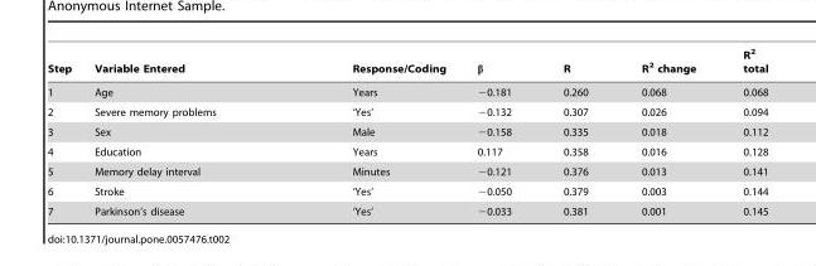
<table><thead><tr><td>Step</td><td>Variable Entered</td><td>Response/Coding</td><td>β</td><td>R</td><td>R<sup>2</sup> change</td><td>R<sup>2</sup> total</td></tr></thead><tbody><tr><td>1</td><td>Age</td><td>Years</td><td>−0.181</td><td>0.260</td><td>0.068</td><td>0.068</td></tr><tr><td>2</td><td>Severe memory problems</td><td>‘Yes’</td><td>−0.132</td><td>0.307</td><td>0.026</td><td>0.094</td></tr><tr><td>3</td><td>Sex</td><td>Male</td><td>−0.158</td><td>0.335</td><td>0.018</td><td>0.112</td></tr><tr><td>4</td><td>Education</td><td>Years</td><td>0.117</td><td>0.358</td><td>0.016</td><td>0.128</td></tr><tr><td>5</td><td>Memory delay interval</td><td>Minutes</td><td>−0.121</td><td>0.376</td><td>0.013</td><td>0.141</td></tr><tr><td>6</td><td>Stroke</td><td>‘Yes’</td><td>−0.050</td><td>0.379</td><td>0.003</td><td>0.144</td></tr><tr><td>7</td><td>Parkinson’s disease</td><td>‘Yes’</td><td>−0.033</td><td>0.381</td><td>0.001</td><td>0.145</td></tr></tbody></table>